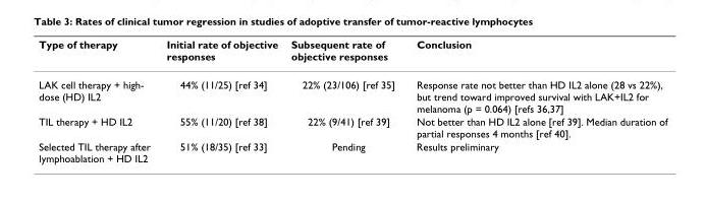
<table><thead><tr><td>Type of therapy</td><td>Initial rate of objective responses</td><td>Subsequent rate of objective responses</td><td>Conclusion</td></tr></thead><tbody><tr><td>LAK cell therapy + high- dose (HD) IL2</td><td>44% (11/25) [ref 34]</td><td>22% (23/106) [ref 35]</td><td>Response rate not better than HD IL2 alone (28 vs 22%), but trend toward improved survival with LAK+IL2 for melanoma (p = 0.064) [refs 36,37]</td></tr><tr><td>TIL therapy + HD IL2</td><td>55% (11/20) [ref 38]</td><td>22% (9/41) [ref 39]</td><td>Not better than HD IL2 alone [ref 39]. Median duration of partial responses 4 months [ref 40].</td></tr><tr><td>Selected TIL therapy after lymphoablation + HD IL2</td><td>51% (18/35) [ref 33]</td><td>Pending</td><td>Results preliminary</td></tr></tbody></table>